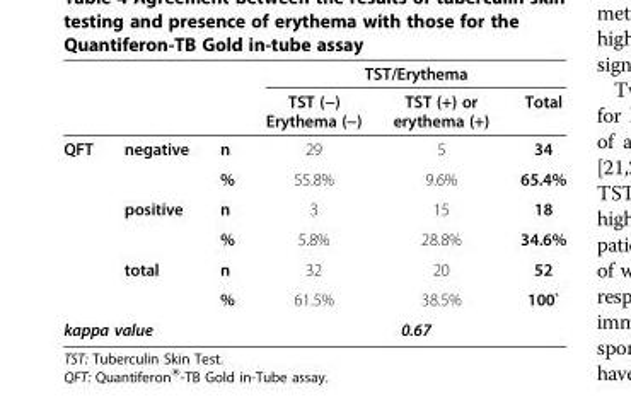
<table><thead><tr><td rowspan="2"></td><td rowspan="2"></td><td rowspan="2"></td><td colspan="3">TST/Erythema</td></tr><tr><td>TST (−) Erythema (−)</td><td>TST (+) or erythema (+)</td><td>Total</td></tr></thead><tbody><tr><td rowspan="6">QFT</td><td>negative</td><td>n</td><td>29</td><td>5</td><td>34</td></tr><tr><td></td><td>%</td><td>55.8%</td><td>9.6%</td><td>65.4%</td></tr><tr><td>positive</td><td>n</td><td>3</td><td>15</td><td>18</td></tr><tr><td></td><td>%</td><td>5.8%</td><td>28.8%</td><td>34.6%</td></tr><tr><td>total</td><td>n</td><td>32</td><td>20</td><td>52</td></tr><tr><td></td><td>%</td><td>61.5%</td><td>38.5%</td><td>100`</td></tr><tr><td colspan="3">kappa value</td><td colspan="3">0.67</td></tr></tbody></table>